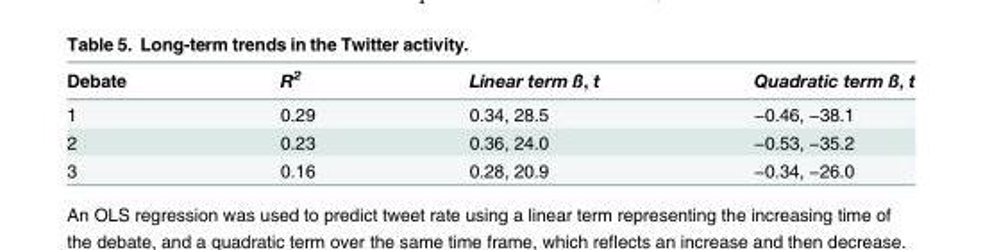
<table><thead><tr><td>Debate</td><td>R<sup>2</sup></td><td>Linear term ß, t</td><td>Quadratic term ß, t</td></tr></thead><tbody><tr><td>1</td><td>0.29</td><td>0.34, 28.5</td><td>−0.46, −38.1</td></tr><tr><td>2</td><td>0.23</td><td>0.36, 24.0</td><td>−0.53, −35.2</td></tr><tr><td>3</td><td>0.16</td><td>0.28, 20.9</td><td>−0.34, −26.0</td></tr></tbody></table>